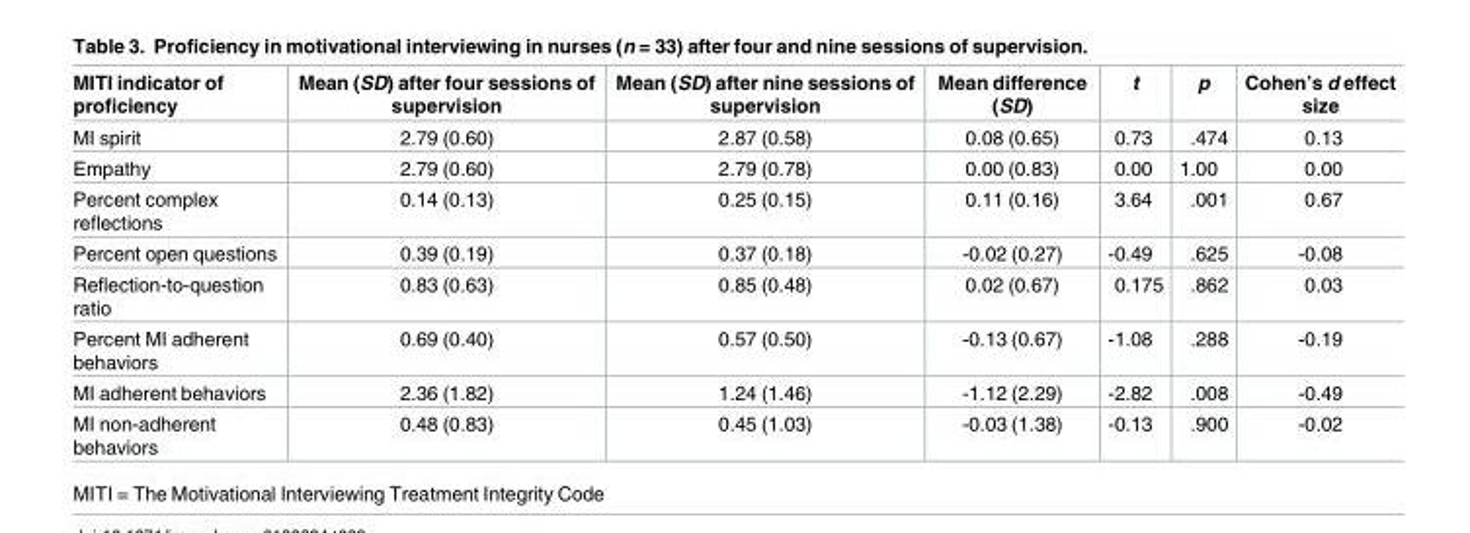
<table><thead><tr><td>MITI indicator of proficiency</td><td>Mean (SD) after four sessions of supervision</td><td>Mean (SD) after nine sessions of supervision</td><td>Mean difference (SD)</td><td>t</td><td>p</td><td>Cohen’s d effect size</td></tr></thead><tbody><tr><td>MI spirit</td><td>2.79 (0.60)</td><td>2.87 (0.58)</td><td>0.08 (0.65)</td><td>0.73</td><td>.474</td><td>0.13</td></tr><tr><td>Empathy</td><td>2.79 (0.60)</td><td>2.79 (0.78)</td><td>0.00 (0.83)</td><td>0.00</td><td>1.00</td><td>0.00</td></tr><tr><td>Percent complex reflections</td><td>0.14 (0.13)</td><td>0.25 (0.15)</td><td>0.11 (0.16)</td><td>3.64</td><td>.001</td><td>0.67</td></tr><tr><td>Percent open questions</td><td>0.39 (0.19)</td><td>0.37 (0.18)</td><td>-0.02 (0.27)</td><td>-0.49</td><td>.625</td><td>-0.08</td></tr><tr><td>Reflection-to-question ratio</td><td>0.83 (0.63)</td><td>0.85 (0.48)</td><td>0.02 (0.67)</td><td>0.175</td><td>.862</td><td>0.03</td></tr><tr><td>Percent MI adherent behaviors</td><td>0.69 (0.40)</td><td>0.57 (0.50)</td><td>-0.13 (0.67)</td><td>-1.08</td><td>.288</td><td>-0.19</td></tr><tr><td>MI adherent behaviors</td><td>2.36 (1.82)</td><td>1.24 (1.46)</td><td>-1.12 (2.29)</td><td>-2.82</td><td>.008</td><td>-0.49</td></tr><tr><td>MI non-adherent behaviors</td><td>0.48 (0.83)</td><td>0.45 (1.03)</td><td>-0.03 (1.38)</td><td>-0.13</td><td>.900</td><td>-0.02</td></tr></tbody></table>